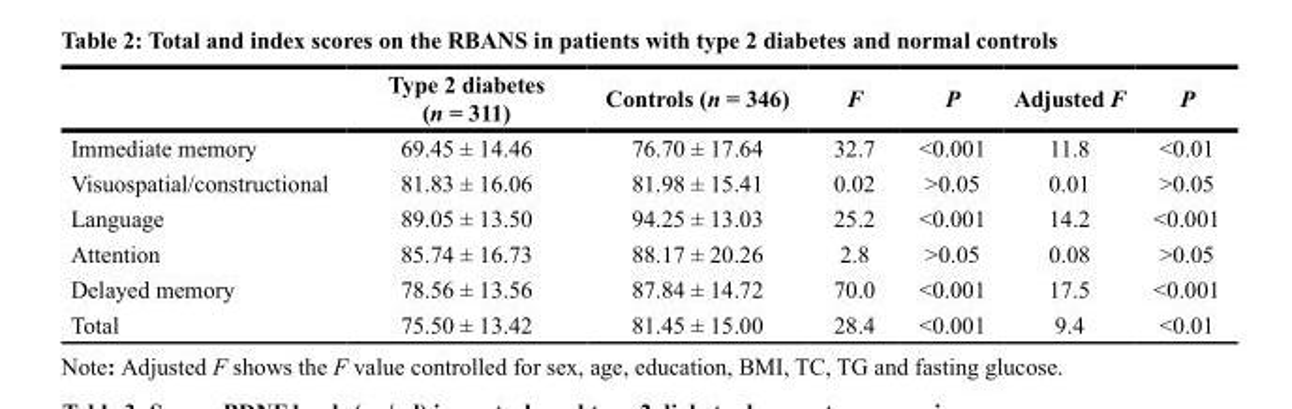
<table><thead><tr><td></td><td>Type 2 diabetes (n = 311)</td><td>Controls (n = 346)</td><td>F</td><td>P</td><td>Adjusted F</td><td>P</td></tr></thead><tbody><tr><td>Immediate memory</td><td>69.45 ± 14.46</td><td>76.70 ± 17.64</td><td>32.7</td><td>&lt;0.001</td><td>11.8</td><td>&lt;0.01</td></tr><tr><td>Visuospatial/constructional</td><td>81.83 ± 16.06</td><td>81.98 ± 15.41</td><td>0.02</td><td>&gt;0.05</td><td>0.01</td><td>&gt;0.05</td></tr><tr><td>Language</td><td>89.05 ± 13.50</td><td>94.25 ± 13.03</td><td>25.2</td><td>&lt;0.001</td><td>14.2</td><td>&lt;0.001</td></tr><tr><td>Attention</td><td>85.74 ± 16.73</td><td>88.17 ± 20.26</td><td>2.8</td><td>&gt;0.05</td><td>0.08</td><td>&gt;0.05</td></tr><tr><td>Delayed memory</td><td>78.56 ± 13.56</td><td>87.84 ± 14.72</td><td>70.0</td><td>&lt;0.001</td><td>17.5</td><td>&lt;0.001</td></tr><tr><td>Total</td><td>75.50 ± 13.42</td><td>81.45 ± 15.00</td><td>28.4</td><td>&lt;0.001</td><td>9.4</td><td>&lt;0.01</td></tr></tbody></table>